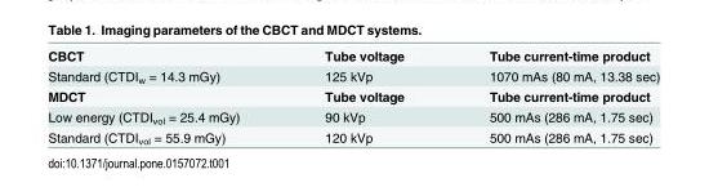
<table><tbody><tr><td>CBCT</td><td>Tube voltage</td><td>Tube current-time product</td></tr><tr><td>Standard (CTDI<sub>w</sub> = 14.3 mGy)</td><td>125 kVp</td><td>1070 mAs (80 mA, 13.38 sec)</td></tr><tr><td>MDCT</td><td>Tube voltage</td><td>Tube current-time product</td></tr><tr><td>Low energy (CTDI<sub>vol</sub> = 25.4 mGy)</td><td>90 kVp</td><td>500 mAs (286 mA, 1.75 sec)</td></tr><tr><td>Standard (CTDI<sub>vol</sub> = 55.9 mGy)</td><td>120 kVp</td><td>500 mAs (286 mA, 1.75 sec)</td></tr></tbody></table>